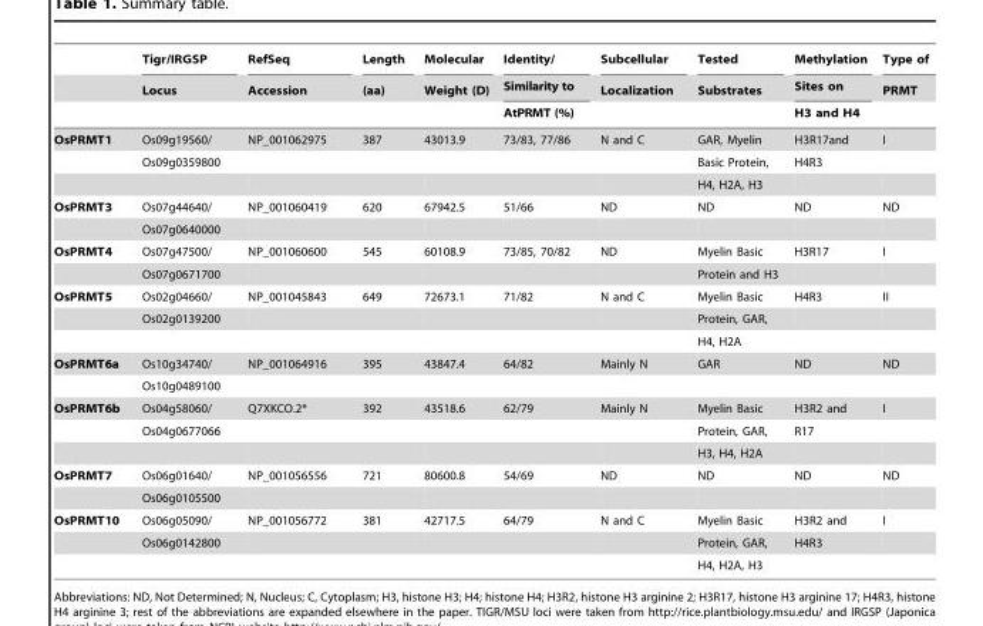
<table><thead><tr><td rowspan="3"></td><td rowspan="3">Tigr/IRGSP Locus</td><td rowspan="3">RefSeq Accession</td><td rowspan="3">Length (aa)</td><td rowspan="3">Molecular Weight (D)</td><td rowspan="3">Identity/ Similarity to AtPRMT (%)</td><td rowspan="3">Subcellular Localization</td><td rowspan="3">Tested Substrates</td><td rowspan="3">Methylation Sites on H3 and H4</td><td rowspan="3">Type of PRMT</td></tr><tr></tr><tr></tr></thead><tbody><tr><td rowspan="3">OsPRMT1</td><td>Os09g19560/</td><td>NP_001062975</td><td>387</td><td>43013.9</td><td>73/83, 77/86</td><td>N and C</td><td>GAR, Myelin</td><td>H3R17and</td><td>I</td></tr><tr><td>Os09g0359800</td><td></td><td></td><td></td><td></td><td></td><td>Basic Protein,</td><td>H4R3</td><td></td></tr><tr><td></td><td></td><td></td><td></td><td></td><td></td><td>H4, H2A, H3</td><td></td><td></td></tr><tr><td rowspan="2">OsPRMT3</td><td>Os07g44640/</td><td>NP_001060419</td><td>620</td><td>67942.5</td><td>51/66</td><td>ND</td><td>ND</td><td>ND</td><td>ND</td></tr><tr><td>Os07g0640000</td><td></td><td></td><td></td><td></td><td></td><td></td><td></td><td></td></tr><tr><td rowspan="2">OsPRMT4</td><td>Os07g47500/</td><td>NP_001060600</td><td>545</td><td>60108.9</td><td>73/85, 70/82</td><td>ND</td><td>Myelin Basic</td><td>H3R17</td><td>I</td></tr><tr><td>Os07g0671700</td><td></td><td></td><td></td><td></td><td></td><td>Protein and H3</td><td></td><td></td></tr><tr><td rowspan="3">OsPRMT5</td><td>Os02g04660/</td><td>NP_001045843</td><td>649</td><td>72673.1</td><td>71/82</td><td>N and C</td><td>Myelin Basic</td><td>H4R3</td><td>II</td></tr><tr><td>Os02g0139200</td><td></td><td></td><td></td><td></td><td></td><td>Protein, GAR,</td><td></td><td></td></tr><tr><td></td><td></td><td></td><td></td><td></td><td></td><td>H4, H2A</td><td></td><td></td></tr><tr><td rowspan="2">OsPRMT6a</td><td>Os10g34740/</td><td>NP_001064916</td><td>395</td><td>43847.4</td><td>64/82</td><td>Mainly N</td><td>GAR</td><td>ND</td><td>ND</td></tr><tr><td>Os10g0489100</td><td></td><td></td><td></td><td></td><td></td><td></td><td></td><td></td></tr><tr><td rowspan="3">OsPRMT6b</td><td>Os04g58060/</td><td>Q7XKCO.2*</td><td>392</td><td>43518.6</td><td>62/79</td><td>Mainly N</td><td>Myelin Basic</td><td>H3R2 and</td><td>I</td></tr><tr><td>Os04g0677066</td><td></td><td></td><td></td><td></td><td></td><td>Protein, GAR,</td><td>R17</td><td></td></tr><tr><td></td><td></td><td></td><td></td><td></td><td></td><td>H3, H4, H2A</td><td></td><td></td></tr><tr><td rowspan="2">OsPRMT7</td><td>Os06g01640/</td><td>NP_001056556</td><td>721</td><td>80600.8</td><td>54/69</td><td>ND</td><td>ND</td><td>ND</td><td>ND</td></tr><tr><td>Os06g0105500</td><td></td><td></td><td></td><td></td><td></td><td></td><td></td><td></td></tr><tr><td rowspan="3">OsPRMT10</td><td>Os06g05090/</td><td>NP_001056772</td><td>381</td><td>42717.5</td><td>64/79</td><td>N and C</td><td>Myelin Basic</td><td>H3R2 and</td><td>I</td></tr><tr><td>Os06g0142800</td><td></td><td></td><td></td><td></td><td></td><td>Protein, GAR,</td><td>H4R3</td><td></td></tr><tr><td></td><td></td><td></td><td></td><td></td><td></td><td>H4, H2A, H3</td><td></td><td></td></tr></tbody></table>